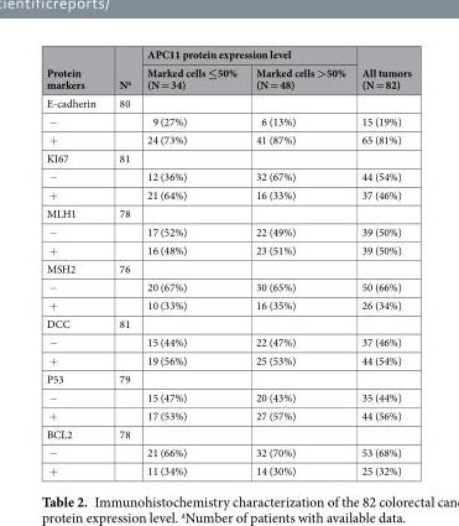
<table><thead><tr><td rowspan="2">Protein markers</td><td rowspan="2">N<sup>a</sup></td><td colspan="2">APC11 protein expression level</td><td rowspan="2">All tumors (N = 82)</td></tr><tr><td>Marked cells ≤50% (N = 34)</td><td>Marked cells &gt;50% (N = 48)</td></tr></thead><tbody><tr><td>E-cadherin</td><td>80</td><td></td><td></td><td></td></tr><tr><td>−</td><td></td><td>9 (27%)</td><td>6 (13%)</td><td>15 (19%)</td></tr><tr><td>+</td><td></td><td>24 (73%)</td><td>41 (87%)</td><td>65 (81%)</td></tr><tr><td>KI67</td><td>81</td><td></td><td></td><td></td></tr><tr><td>−</td><td></td><td>12 (36%)</td><td>32 (67%)</td><td>44 (54%)</td></tr><tr><td>+</td><td></td><td>21 (64%)</td><td>16 (33%)</td><td>37 (46%)</td></tr><tr><td>MLH1</td><td>78</td><td></td><td></td><td></td></tr><tr><td>−</td><td></td><td>17 (52%)</td><td>22 (49%)</td><td>39 (50%)</td></tr><tr><td>+</td><td></td><td>16 (48%)</td><td>23 (51%)</td><td>39 (50%)</td></tr><tr><td>MSH2</td><td>76</td><td></td><td></td><td></td></tr><tr><td>−</td><td></td><td>20 (67%)</td><td>30 (65%)</td><td>50 (66%)</td></tr><tr><td>+</td><td></td><td>10 (33%)</td><td>16 (35%)</td><td>26 (34%)</td></tr><tr><td>DCC</td><td>81</td><td></td><td></td><td></td></tr><tr><td>−</td><td></td><td>15 (44%)</td><td>22 (47%)</td><td>37 (46%)</td></tr><tr><td>+</td><td></td><td>19 (56%)</td><td>25 (53%)</td><td>44 (54%)</td></tr><tr><td>P53</td><td>79</td><td></td><td></td><td></td></tr><tr><td>−</td><td></td><td>15 (47%)</td><td>20 (43%)</td><td>35 (44%)</td></tr><tr><td>+</td><td></td><td>17 (53%)</td><td>27 (57%)</td><td>44 (56%)</td></tr><tr><td>BCL2</td><td>78</td><td></td><td></td><td></td></tr><tr><td>−</td><td></td><td>21 (66%)</td><td>32 (70%)</td><td>53 (68%)</td></tr><tr><td>+</td><td></td><td>11 (34%)</td><td>14 (30%)</td><td>25 (32%)</td></tr></tbody></table>